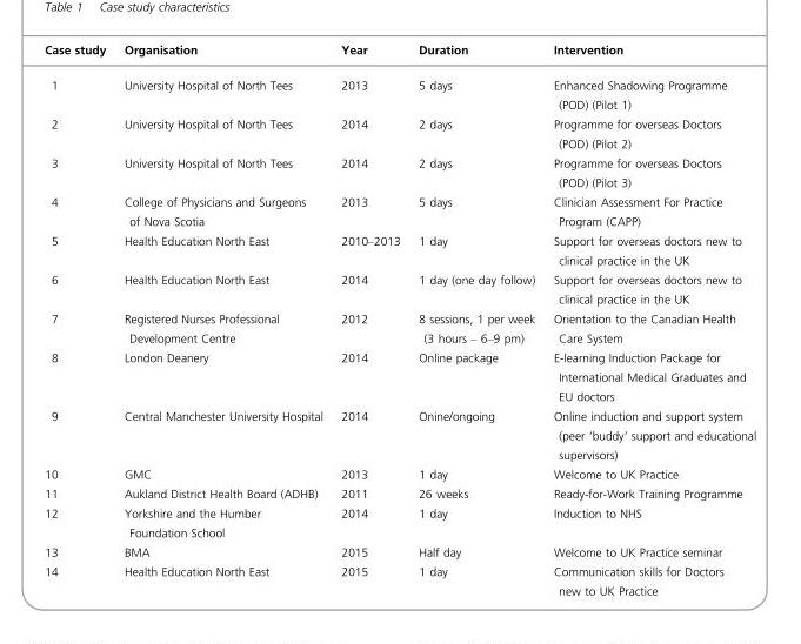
<table><thead><tr><td>Case study</td><td>Organisation</td><td>Year</td><td>Duration</td><td>Intervention</td></tr></thead><tbody><tr><td>1</td><td>University Hospital of North Tees</td><td>2013</td><td>5 days</td><td>Enhanced Shadowing Programme (POD) (Pilot 1)</td></tr><tr><td>2</td><td>University Hospital of North Tees</td><td>2014</td><td>2 days</td><td>Programme for overseas Doctors (POD) (Pilot 2)</td></tr><tr><td>3</td><td>University Hospital of North Tees</td><td>2014</td><td>2 days</td><td>Programme for overseas Doctors (POD) (Pilot 3)</td></tr><tr><td>4</td><td>College of Physicians and Surgeons of Nova Scotia</td><td>2013</td><td>5 days</td><td>Clinician Assessment For Practice Program (CAPP)</td></tr><tr><td>5</td><td>Health Education North East</td><td>2010–2013</td><td>1 day</td><td>Support for overseas doctors new to clinical practice in the UK</td></tr><tr><td>6</td><td>Health Education North East</td><td>2014</td><td>1 day (one day follow)</td><td>Support for overseas doctors new to clinical practice in the UK</td></tr><tr><td>7</td><td>Registered Nurses Professional Development Centre</td><td>2012</td><td>8 sessions, 1 per week (3 hours – 6–9 pm)</td><td>Orientation to the Canadian Health Care System</td></tr><tr><td>8</td><td>London Deanery</td><td>2014</td><td>Online package</td><td>E-learning Induction Package for International Medical Graduates and EU doctors</td></tr><tr><td>9</td><td>Central Manchester University Hospital</td><td>2014</td><td>Onine/ongoing</td><td>Online induction and support system (peer ‘buddy’ support and educational supervisors)</td></tr><tr><td>10</td><td>GMC</td><td>2013</td><td>1 day</td><td>Welcome to UK Practice</td></tr><tr><td>11</td><td>Aukland District Health Board (ADHB)</td><td>2011</td><td>26 weeks</td><td>Ready-for-Work Training Programme</td></tr><tr><td>12</td><td>Yorkshire and the Humber Foundation School</td><td>2014</td><td>1 day</td><td>Induction to NHS</td></tr><tr><td>13</td><td>BMA</td><td>2015</td><td>Half day</td><td>Welcome to UK Practice seminar</td></tr><tr><td>14</td><td>Health Education North East</td><td>2015</td><td>1 day</td><td>Communication skills for Doctors new to UK Practice</td></tr></tbody></table>